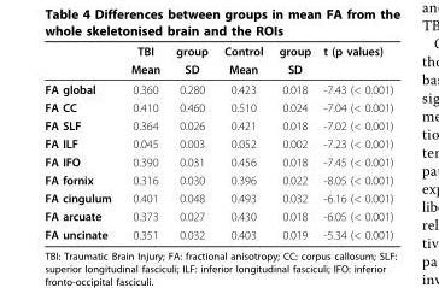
<table><thead><tr><td rowspan="2"></td><td rowspan="2">TBI Mean</td><td rowspan="2">group SD</td><td rowspan="2">Control Mean</td><td rowspan="2">group SD</td><td rowspan="2">t (p values)</td></tr><tr></tr></thead><tbody><tr><td>FA global</td><td>0.360</td><td>0.280</td><td>0.423</td><td>0.018</td><td>-7.43 (&lt; 0.001)</td></tr><tr><td>FA CC</td><td>0.410</td><td>0.460</td><td>0.510</td><td>0.024</td><td>-7.04 (&lt; 0.001)</td></tr><tr><td>FA SLF</td><td>0.364</td><td>0.026</td><td>0.421</td><td>0.018</td><td>-7.02 (&lt; 0.001)</td></tr><tr><td>FA ILF</td><td>0.045</td><td>0.003</td><td>0.052</td><td>0.002</td><td>-7.23 (&lt; 0.001)</td></tr><tr><td>FA IFO</td><td>0.390</td><td>0.031</td><td>0.456</td><td>0.018</td><td>-7.45 (&lt; 0.001)</td></tr><tr><td>FA fornix</td><td>0.316</td><td>0.030</td><td>0.396</td><td>0.022</td><td>-8.05 (&lt; 0.001)</td></tr><tr><td>FA cingulum</td><td>0.401</td><td>0.048</td><td>0.493</td><td>0.032</td><td>-6.16 (&lt; 0.001)</td></tr><tr><td>FA arcuate</td><td>0.373</td><td>0.027</td><td>0.430</td><td>0.018</td><td>-6.05 (&lt; 0.001)</td></tr><tr><td>FA uncinate</td><td>0.351</td><td>0.032</td><td>0.403</td><td>0.019</td><td>-5.34 (&lt; 0.001)</td></tr></tbody></table>